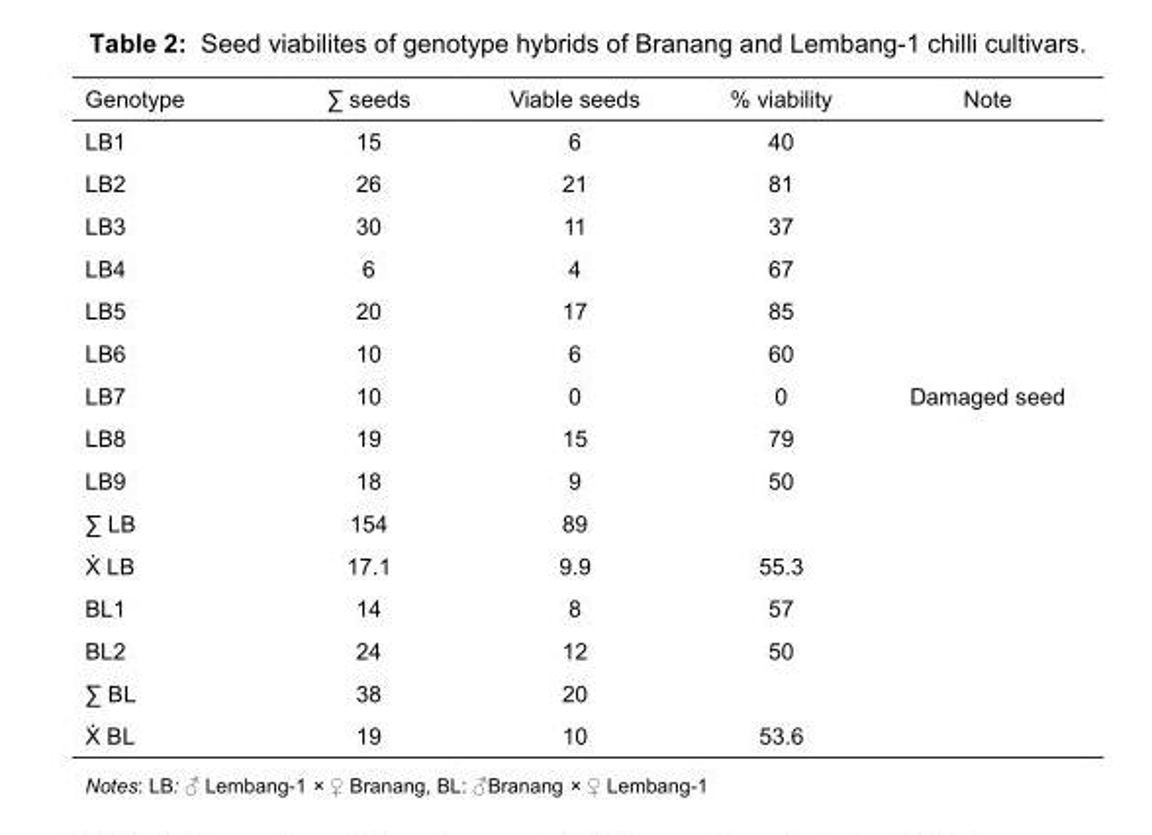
<table><thead><tr><td>Genotype</td><td>∑ seeds</td><td>Viable seeds</td><td>% viability</td><td>Note</td></tr></thead><tbody><tr><td>LB1</td><td>15</td><td>6</td><td>40</td><td></td></tr><tr><td>LB2</td><td>26</td><td>21</td><td>81</td><td></td></tr><tr><td>LB3</td><td>30</td><td>11</td><td>37</td><td></td></tr><tr><td>LB4</td><td>6</td><td>4</td><td>67</td><td></td></tr><tr><td>LB5</td><td>20</td><td>17</td><td>85</td><td></td></tr><tr><td>LB6</td><td>10</td><td>6</td><td>60</td><td></td></tr><tr><td>LB7</td><td>10</td><td>0</td><td>0</td><td>Damaged seed</td></tr><tr><td>LB8</td><td>19</td><td>15</td><td>79</td><td></td></tr><tr><td>LB9</td><td>18</td><td>9</td><td>50</td><td></td></tr><tr><td>∑ LB</td><td>154</td><td>89</td><td></td><td></td></tr><tr><td>Ẋ LB</td><td>17.1</td><td>9.9</td><td>55.3</td><td></td></tr><tr><td>BL1</td><td>14</td><td>8</td><td>57</td><td></td></tr><tr><td>BL2</td><td>24</td><td>12</td><td>50</td><td></td></tr><tr><td>∑ BL</td><td>38</td><td>20</td><td></td><td></td></tr><tr><td>Ẋ BL</td><td>19</td><td>10</td><td>53.6</td><td></td></tr></tbody></table>